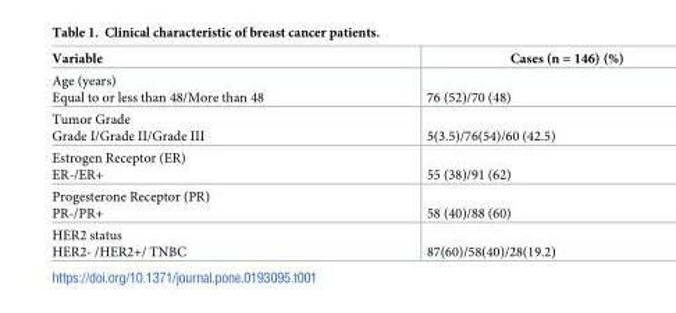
<table><thead><tr><td>Variable</td><td>Cases (n = 146) (%)</td></tr></thead><tbody><tr><td>Age (years) Equal to or less than 48/More than 48</td><td>76 (52)/70 (48)</td></tr><tr><td>Tumor Grade Grade I/Grade II/Grade III</td><td>5(3.5)/76(54)/60 (42.5)</td></tr><tr><td>Estrogen Receptor (ER) ER-/ER+</td><td>55 (38)/91 (62)</td></tr><tr><td>Progesterone Receptor (PR) PR-/PR+</td><td>58 (40)/88 (60)</td></tr><tr><td>HER2 status HER2- /HER2+/ TNBC</td><td>87(60)/58(40)/28(19.2)</td></tr></tbody></table>